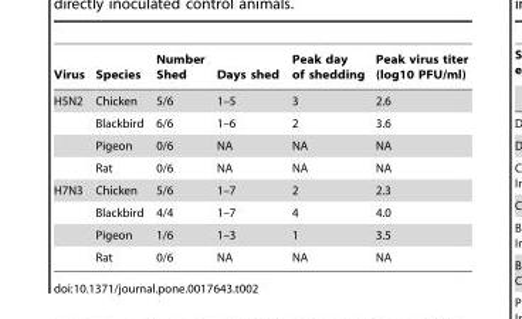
<table><thead><tr><td>Virus</td><td>Species</td><td>Number Shed</td><td>Days shed</td><td>Peak day of shedding</td><td>Peak virus titer (log10 PFU/ml)</td></tr></thead><tbody><tr><td rowspan="4">H5N2</td><td>Chicken</td><td>5/6</td><td>1–5</td><td>3</td><td>2.6</td></tr><tr><td>Blackbird</td><td>6/6</td><td>1–6</td><td>2</td><td>3.6</td></tr><tr><td>Pigeon</td><td>0/6</td><td>NA</td><td>NA</td><td>NA</td></tr><tr><td>Rat</td><td>0/6</td><td>NA</td><td>NA</td><td>NA</td></tr><tr><td rowspan="4">H7N3</td><td>Chicken</td><td>5/6</td><td>1–7</td><td>2</td><td>2.3</td></tr><tr><td>Blackbird</td><td>4/4</td><td>1–7</td><td>4</td><td>4.0</td></tr><tr><td>Pigeon</td><td>1/6</td><td>1–3</td><td>1</td><td>3.5</td></tr><tr><td>Rat</td><td>0/6</td><td>NA</td><td>NA</td><td>NA</td></tr></tbody></table>